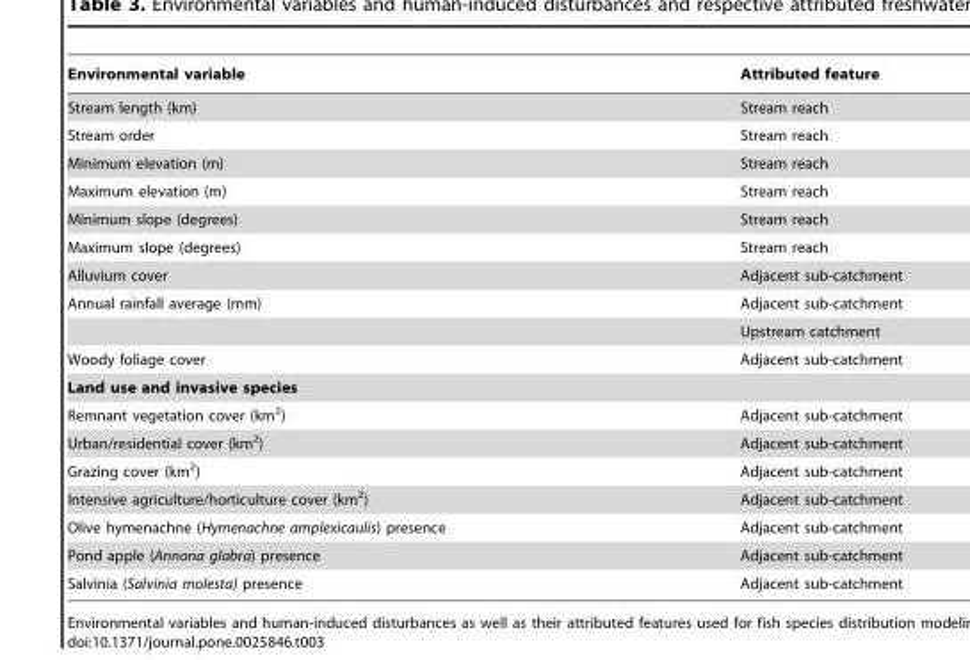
<table><thead><tr><td>Environmental variable</td><td>Attributed feature</td></tr></thead><tbody><tr><td>Stream length (km)</td><td>Stream reach</td></tr><tr><td>Stream order</td><td>Stream reach</td></tr><tr><td>Minimum elevation (m)</td><td>Stream reach</td></tr><tr><td>Maximum elevation (m)</td><td>Stream reach</td></tr><tr><td>Minimum slope (degrees)</td><td>Stream reach</td></tr><tr><td>Maximum slope (degrees)</td><td>Stream reach</td></tr><tr><td>Alluvium cover</td><td>Adjacent sub-catchment</td></tr><tr><td rowspan="2">Annual rainfall average (mm)</td><td>Adjacent sub-catchment</td></tr><tr><td>Upstream catchment</td></tr><tr><td>Woody foliage cover</td><td>Adjacent sub-catchment</td></tr><tr><td colspan="2">Land use and invasive species</td></tr><tr><td>Remnant vegetation cover (km<sup>2</sup>)</td><td>Adjacent sub-catchment</td></tr><tr><td>Urban/residential cover (km<sup>2</sup>)</td><td>Adjacent sub-catchment</td></tr><tr><td>Grazing cover (km<sup>2</sup>)</td><td>Adjacent sub-catchment</td></tr><tr><td>Intensive agriculture/horticulture cover (km<sup>2</sup>)</td><td>Adjacent sub-catchment</td></tr><tr><td>Olive hymenachne (Hymenachne amplexicaulis) presence</td><td>Adjacent sub-catchment</td></tr><tr><td>Pond apple (Annona glabra) presence</td><td>Adjacent sub-catchment</td></tr><tr><td>Salvinia (Salvinia molesta) presence</td><td>Adjacent sub-catchment</td></tr></tbody></table>